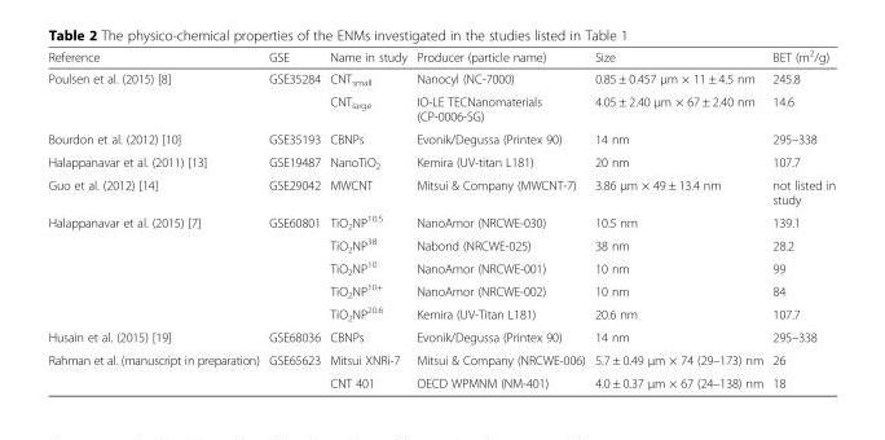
<table><thead><tr><td>Reference</td><td>GSE</td><td>Name in study</td><td>Producer (particle name)</td><td>Size</td><td>BET (m<sup>2</sup>/g)</td></tr></thead><tbody><tr><td rowspan="2">Poulsen et al. (2015) [8]</td><td>GSE35284</td><td>CNT<sub>small</sub></td><td>Nanocyl (NC-7000)</td><td>0.85 ± 0.457 μm × 11 ± 4.5 nm</td><td>245.8</td></tr><tr><td></td><td>CNT<sub>large</sub></td><td>IO-LE TECNanomaterials (CP-0006-SG)</td><td>4.05 ± 2.40 μm × 67 ± 2.40 nm</td><td>14.6</td></tr><tr><td>Bourdon et al. (2012) [10]</td><td>GSE35193</td><td>CBNPs</td><td>Evonik/Degussa (Printex 90)</td><td>14 nm</td><td>295–338</td></tr><tr><td>Halappanavar et al. (2011) [13]</td><td>GSE19487</td><td>NanoTiO<sub>2</sub></td><td>Kemira (UV-titan L181)</td><td>20 nm</td><td>107.7</td></tr><tr><td>Guo et al. (2012) [14]</td><td>GSE29042</td><td>MWCNT</td><td>Mitsui &amp; Company (MWCNT-7)</td><td>3.86 μm × 49 ± 13.4 nm</td><td>not listed in study</td></tr><tr><td rowspan="5">Halappanavar et al. (2015) [7]</td><td>GSE60801</td><td>TiO<sub>2</sub>NP<sup>10.5</sup></td><td>NanoAmor (NRCWE-030)</td><td>10.5 nm</td><td>139.1</td></tr><tr><td></td><td>TiO<sub>2</sub>NP<sup>38</sup></td><td>Nabond (NRCWE-025)</td><td>38 nm</td><td>28.2</td></tr><tr><td></td><td>TiO<sub>2</sub>NP<sup>10</sup></td><td>NanoAmor (NRCWE-001)</td><td>10 nm</td><td>99</td></tr><tr><td></td><td>TiO<sub>2</sub>NP<sup>10+</sup></td><td>NanoAmor (NRCWE-002)</td><td>10 nm</td><td>84</td></tr><tr><td></td><td>TiO<sub>2</sub>NP<sup>20.6</sup></td><td>Kemira (UV-Titan L181)</td><td>20.6 nm</td><td>107.7</td></tr><tr><td>Husain et al. (2015) [19]</td><td>GSE68036</td><td>CBNPs</td><td>Evonik/Degussa (Printex 90)</td><td>14 nm</td><td>295–338</td></tr><tr><td rowspan="2">Rahman et al. (manuscript in preparation)</td><td>GSE65623</td><td>Mitsui XNRi-7</td><td>Mitsui &amp; Company (NRCWE-006)</td><td>5.7 ± 0.49 μm × 74 (29–173) nm</td><td>26</td></tr><tr><td></td><td>CNT 401</td><td>OECD WPMNM (NM-401)</td><td>4.0 ± 0.37 μm × 67 (24–138) nm</td><td>18</td></tr></tbody></table>